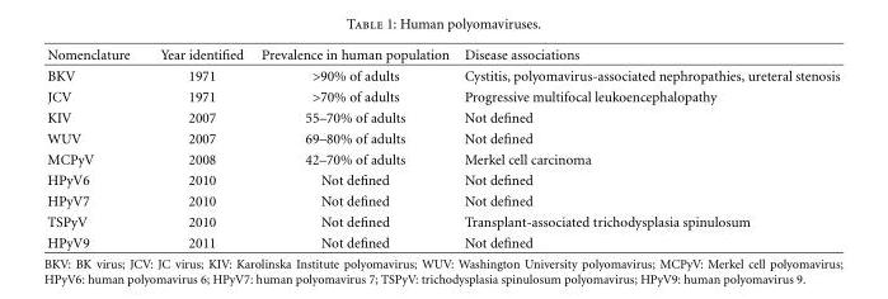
<table><thead><tr><td>Nomenclature</td><td>Year identified</td><td>Prevalence in human population</td><td>Disease associations</td></tr></thead><tbody><tr><td>BKV</td><td>1971</td><td>&gt;90% of adults</td><td>Cystitis, polyomavirus-associated nephropathies, ureteral stenosis</td></tr><tr><td>JCV</td><td>1971</td><td>&gt;70% of adults</td><td>Progressive multifocal leukoencephalopathy</td></tr><tr><td>KIV</td><td>2007</td><td>55–70% of adults</td><td>Not defined</td></tr><tr><td>WUV</td><td>2007</td><td>69–80% of adults</td><td>Not defined</td></tr><tr><td>MCPyV</td><td>2008</td><td>42–70% of adults</td><td>Merkel cell carcinoma</td></tr><tr><td>HPyV6</td><td>2010</td><td>Not defined</td><td>Not defined</td></tr><tr><td>HPyV7</td><td>2010</td><td>Not defined</td><td>Not defined</td></tr><tr><td>TSPyV</td><td>2010</td><td>Not defined</td><td>Transplant-associated trichodysplasia spinulosum</td></tr><tr><td>HPyV9</td><td>2011</td><td>Not defined</td><td>Not defined</td></tr></tbody></table>